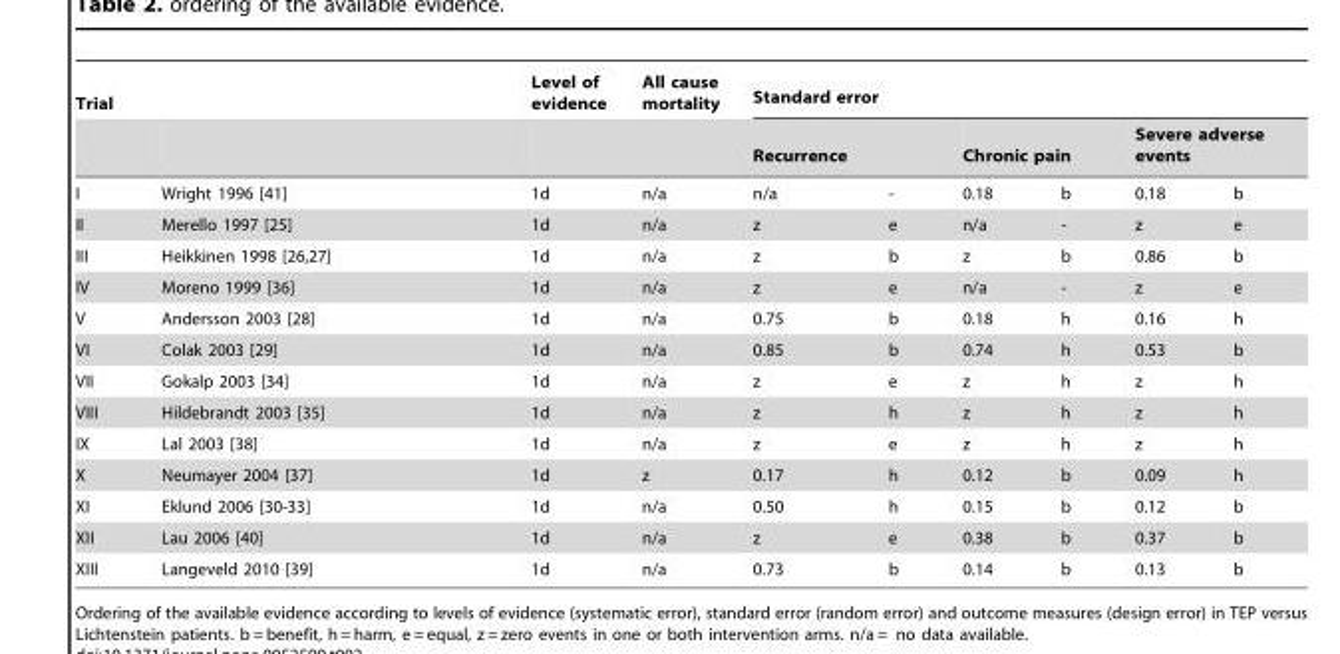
<table><thead><tr><td rowspan="3">Trial I</td><td rowspan="3">Wright 1996 [41]</td><td rowspan="3">Level of evidence 1d</td><td rowspan="3">All cause mortality n/a</td><td colspan="6">Standard error</td></tr><tr><td colspan="2">Recurrence</td><td colspan="2">Chronic pain</td><td colspan="2">Severe adverse events</td></tr><tr><td>n/a</td><td>-</td><td>0.18</td><td>b</td><td>0.18</td><td>b</td></tr></thead><tbody><tr><td>II</td><td>Merello 1997 [25]</td><td>1d</td><td>n/a</td><td>z</td><td>e</td><td>n/a</td><td>-</td><td>z</td><td>e</td></tr><tr><td>III</td><td>Heikkinen 1998 [26,27]</td><td>1d</td><td>n/a</td><td>z</td><td>b</td><td>z</td><td>b</td><td>0.86</td><td>b</td></tr><tr><td>IV</td><td>Moreno 1999 [36]</td><td>1d</td><td>n/a</td><td>z</td><td>e</td><td>n/a</td><td>-</td><td>z</td><td>e</td></tr><tr><td>V</td><td>Andersson 2003 [28]</td><td>1d</td><td>n/a</td><td>0.75</td><td>b</td><td>0.18</td><td>h</td><td>0.16</td><td>h</td></tr><tr><td>VI</td><td>Colak 2003 [29]</td><td>1d</td><td>n/a</td><td>0.85</td><td>b</td><td>0.74</td><td>h</td><td>0.53</td><td>b</td></tr><tr><td>VII</td><td>Gokalp 2003 [34]</td><td>1d</td><td>n/a</td><td>z</td><td>e</td><td>z</td><td>h</td><td>z</td><td>h</td></tr><tr><td>VIII</td><td>Hildebrandt 2003 [35]</td><td>1d</td><td>n/a</td><td>z</td><td>h</td><td>z</td><td>h</td><td>z</td><td>h</td></tr><tr><td>IX</td><td>Lal 2003 [38]</td><td>1d</td><td>n/a</td><td>z</td><td>e</td><td>z</td><td>h</td><td>z</td><td>h</td></tr><tr><td>X</td><td>Neumayer 2004 [37]</td><td>1d</td><td>z</td><td>0.17</td><td>h</td><td>0.12</td><td>b</td><td>0.09</td><td>h</td></tr><tr><td>XI</td><td>Eklund 2006 [30-33]</td><td>1d</td><td>n/a</td><td>0.50</td><td>h</td><td>0.15</td><td>b</td><td>0.12</td><td>b</td></tr><tr><td>XII</td><td>Lau 2006 [40]</td><td>1d</td><td>n/a</td><td>z</td><td>e</td><td>0.38</td><td>b</td><td>0.37</td><td>b</td></tr><tr><td>XIII</td><td>Langeveld 2010 [39]</td><td>1d</td><td>n/a</td><td>0.73</td><td>b</td><td>0.14</td><td>b</td><td>0.13</td><td>b</td></tr></tbody></table>